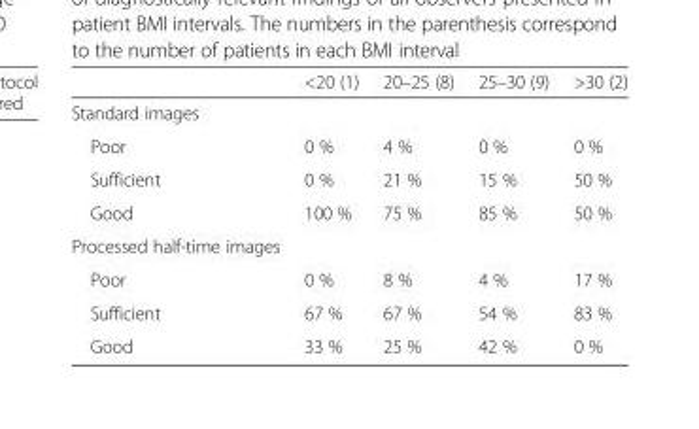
<table><thead><tr><td></td><td>&lt;20 (1)</td><td>20–25 (8)</td><td>25–30 (9)</td><td>&gt;30 (2)</td></tr></thead><tbody><tr><td colspan="5">Standard images</td></tr><tr><td>Poor</td><td>0 %</td><td>4 %</td><td>0 %</td><td>0 %</td></tr><tr><td>Sufficient</td><td>0 %</td><td>21 %</td><td>15 %</td><td>50 %</td></tr><tr><td>Good</td><td>100 %</td><td>75 %</td><td>85 %</td><td>50 %</td></tr><tr><td colspan="5">Processed half-time images</td></tr><tr><td>Poor</td><td>0 %</td><td>8 %</td><td>4 %</td><td>17 %</td></tr><tr><td>Sufficient</td><td>67 %</td><td>67 %</td><td>54 %</td><td>83 %</td></tr><tr><td>Good</td><td>33 %</td><td>25 %</td><td>42 %</td><td>0 %</td></tr></tbody></table>